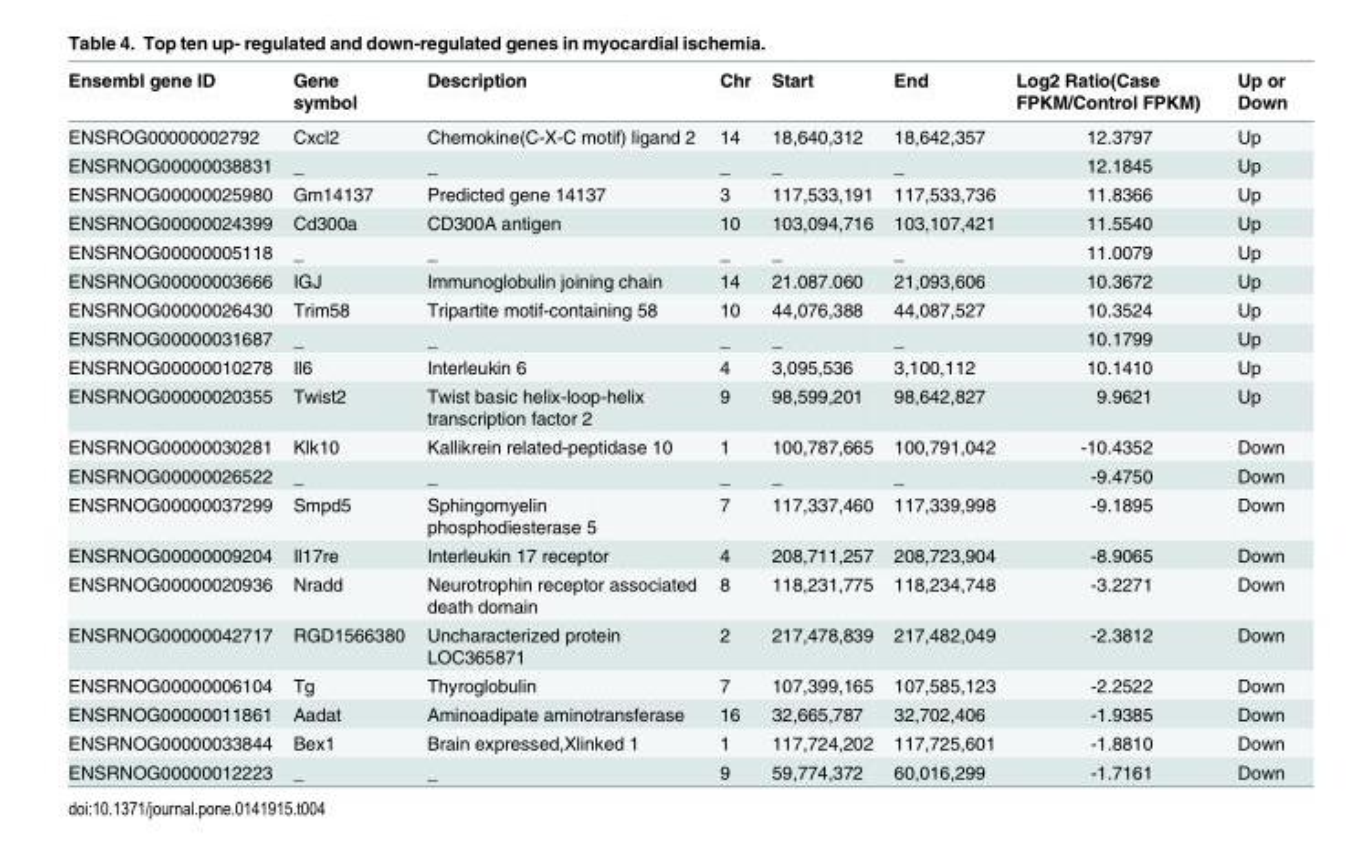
<table><thead><tr><td>Ensembl gene ID</td><td>Gene symbol</td><td>Description</td><td>Chr</td><td>Start</td><td>End</td><td>Log2 Ratio(Case FPKM/Control FPKM)</td><td>Up or Down</td></tr></thead><tbody><tr><td>ENSROG00000002792</td><td>Cxcl2</td><td>Chemokine(C-X-C motif) ligand 2</td><td>14</td><td>18,640,312</td><td>18,642,357</td><td>12.3797</td><td>Up</td></tr><tr><td>ENSRNOG00000038831</td><td>_</td><td>_</td><td>_</td><td>_</td><td>_</td><td>12.1845</td><td>Up</td></tr><tr><td>ENSRNOG00000025980</td><td>Gm14137</td><td>Predicted gene 14137</td><td>3</td><td>117,533,191</td><td>117,533,736</td><td>11.8366</td><td>Up</td></tr><tr><td>ENSRNOG00000024399</td><td>Cd300a</td><td>CD300A antigen</td><td>10</td><td>103,094,716</td><td>103,107,421</td><td>11.5540</td><td>Up</td></tr><tr><td>ENSRNOG00000005118</td><td>_</td><td>_</td><td>_</td><td>_</td><td>_</td><td>11.0079</td><td>Up</td></tr><tr><td>ENSRNOG00000003666</td><td>IGJ</td><td>Immunoglobulin joining chain</td><td>14</td><td>21.087.060</td><td>21,093,606</td><td>10.3672</td><td>Up</td></tr><tr><td>ENSRNOG00000026430</td><td>Trim58</td><td>Tripartite motif-containing 58</td><td>10</td><td>44,076,388</td><td>44,087,527</td><td>10.3524</td><td>Up</td></tr><tr><td>ENSRNOG00000031687</td><td>_</td><td>_</td><td>_</td><td>_</td><td>_</td><td>10.1799</td><td>Up</td></tr><tr><td>ENSRNOG00000010278</td><td>Il6</td><td>Interleukin 6</td><td>4</td><td>3,095,536</td><td>3,100,112</td><td>10.1410</td><td>Up</td></tr><tr><td>ENSRNOG00000020355</td><td>Twist2</td><td>Twist basic helix-loop-helix transcription factor 2</td><td>9</td><td>98,599,201</td><td>98,642,827</td><td>9.9621</td><td>Up</td></tr><tr><td>ENSRNOG00000030281</td><td>Klk10</td><td>Kallikrein related-peptidase 10</td><td>1</td><td>100,787,665</td><td>100,791,042</td><td>-10.4352</td><td>Down</td></tr><tr><td>ENSRNOG00000026522</td><td>_</td><td>_</td><td>_</td><td>_</td><td>_</td><td>-9.4750</td><td>Down</td></tr><tr><td>ENSRNOG00000037299</td><td>Smpd5</td><td>Sphingomyelin phosphodiesterase 5</td><td>7</td><td>117,337,460</td><td>117,339,998</td><td>-9.1895</td><td>Down</td></tr><tr><td>ENSRNOG00000009204</td><td>Il17re</td><td>Interleukin 17 receptor</td><td>4</td><td>208,711,257</td><td>208,723,904</td><td>-8.9065</td><td>Down</td></tr><tr><td>ENSRNOG00000020936</td><td>Nradd</td><td>Neurotrophin receptor associated death domain</td><td>8</td><td>118,231,775</td><td>118,234,748</td><td>-3.2271</td><td>Down</td></tr><tr><td>ENSRNOG00000042717</td><td>RGD1566380</td><td>Uncharacterized protein LOC365871</td><td>2</td><td>217,478,839</td><td>217,482,049</td><td>-2.3812</td><td>Down</td></tr><tr><td>ENSRNOG00000006104</td><td>Tg</td><td>Thyroglobulin</td><td>7</td><td>107,399,165</td><td>107,585,123</td><td>-2.2522</td><td>Down</td></tr><tr><td>ENSRNOG00000011861</td><td>Aadat</td><td>Aminoadipate aminotransferase</td><td>16</td><td>32,665,787</td><td>32,702,406</td><td>-1.9385</td><td>Down</td></tr><tr><td>ENSRNOG00000033844</td><td>Bex1</td><td>Brain expressed,Xlinked 1</td><td>1</td><td>117,724,202</td><td>117,725,601</td><td>-1.8810</td><td>Down</td></tr><tr><td>ENSRNOG00000012223</td><td>_</td><td>_</td><td>9</td><td>59,774,372</td><td>60,016,299</td><td>-1.7161</td><td>Down</td></tr></tbody></table>